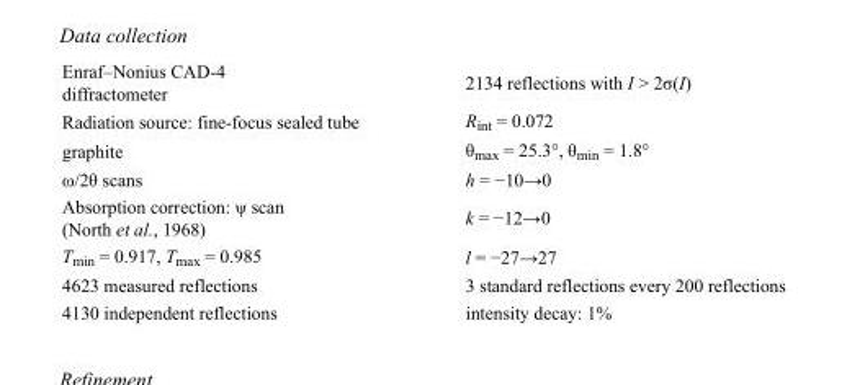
<table><tbody><tr><td>Enraf–Nonius CAD-4 diffractometer</td><td>2134 reflections with I &gt; 2σ(I)</td></tr><tr><td>Radiation source: fine-focus sealed tube</td><td>R<sub>int</sub> = 0.072</td></tr><tr><td>graphite</td><td>θ<sub>max</sub> = 25.3°, θ<sub>min</sub> = 1.8°</td></tr><tr><td>ω/2θ scans</td><td>h = −10→0</td></tr><tr><td>Absorption correction: ψ scan (North et al., 1968)</td><td>k = −12→0</td></tr><tr><td>T<sub>min</sub> = 0.917, T<sub>max</sub> = 0.985</td><td>l = −27→27</td></tr><tr><td>4623 measured reflections</td><td>3 standard reflections every 200 reflections</td></tr><tr><td>4130 independent reflections</td><td>intensity decay: 1%</td></tr></tbody></table>